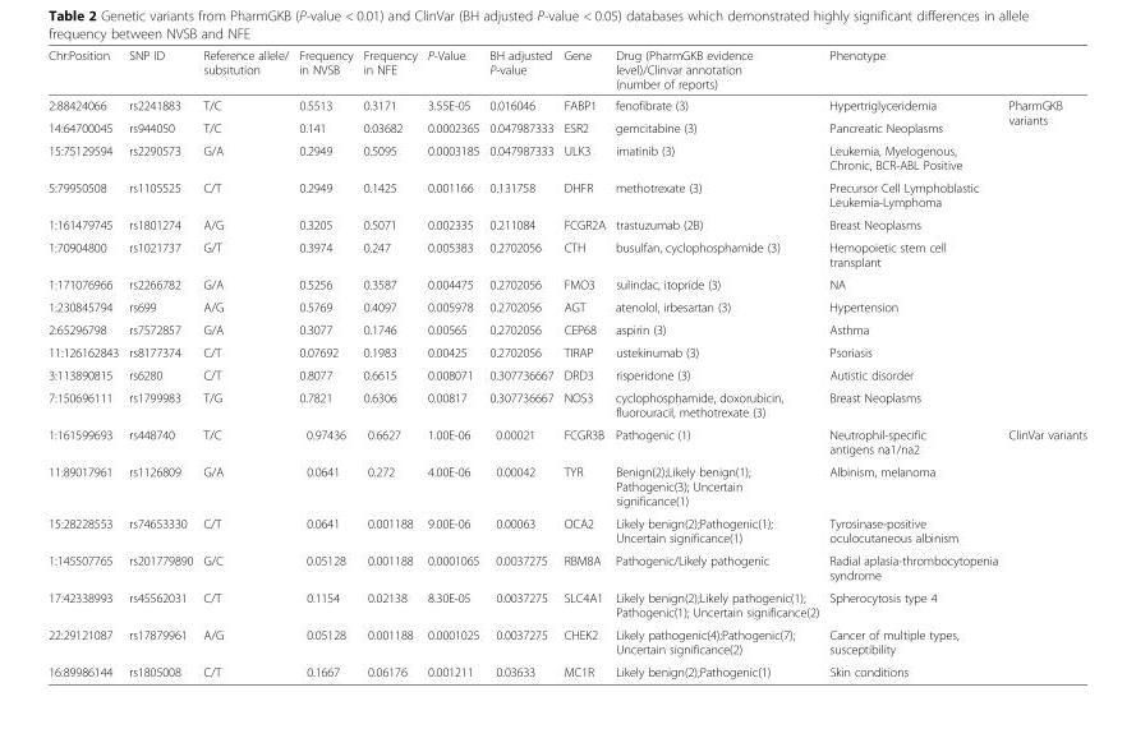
<table><thead><tr><td>Chr:Position</td><td>SNP ID</td><td>Reference allele/ subsitution</td><td>Frequency in NVSB</td><td>Frequency in NFE</td><td>P-Value</td><td>BH adjusted P-value</td><td>Gene</td><td>Drug (PharmGKB evidence level)/Clinvar annotation (number of reports)</td><td>Phenotype</td><td></td></tr></thead><tbody><tr><td>2:88424066</td><td>rs2241883</td><td>T/C</td><td>0.5513</td><td>0.3171</td><td>3.55E-05</td><td>0.016046</td><td>FABP1</td><td>fenofibrate (3)</td><td>Hypertriglyceridemia</td><td rowspan="12">PharmGKB variants</td></tr><tr><td>14:64700045</td><td>rs944050</td><td>T/C</td><td>0.141</td><td>0.03682</td><td>0.0002365</td><td>0.047987333</td><td>ESR2</td><td>gemcitabine (3)</td><td>Pancreatic Neoplasms</td></tr><tr><td>15:75129594</td><td>rs2290573</td><td>G/A</td><td>0.2949</td><td>0.5095</td><td>0.0003185</td><td>0.047987333</td><td>ULK3</td><td>imatinib (3)</td><td>Leukemia, Myelogenous, Chronic, BCR-ABL Positive</td></tr><tr><td>5:79950508</td><td>rs1105525</td><td>C/T</td><td>0.2949</td><td>0.1425</td><td>0.001166</td><td>0.131758</td><td>DHFR</td><td>methotrexate (3)</td><td>Precursor Cell Lymphoblastic Leukemia-Lymphoma</td></tr><tr><td>1:161479745</td><td>rs1801274</td><td>A/G</td><td>0.3205</td><td>0.5071</td><td>0.002335</td><td>0.211084</td><td>FCGR2A</td><td>trastuzumab (2B)</td><td>Breast Neoplasms</td></tr><tr><td>1:70904800</td><td>rs1021737</td><td>G/T</td><td>0.3974</td><td>0.247</td><td>0.005383</td><td>0.2702056</td><td>CTH</td><td>busulfan, cyclophosphamide (3)</td><td>Hemopoietic stem cell transplant</td></tr><tr><td>1:171076966</td><td>rs2266782</td><td>G/A</td><td>0.5256</td><td>0.3587</td><td>0.004475</td><td>0.2702056</td><td>FMO3</td><td>sulindac, itopride (3)</td><td>NA</td></tr><tr><td>1:230845794</td><td>rs699</td><td>A/G</td><td>0.5769</td><td>0.4097</td><td>0.005978</td><td>0.2702056</td><td>AGT</td><td>atenolol, irbesartan (3)</td><td>Hypertension</td></tr><tr><td>2:65296798</td><td>rs7572857</td><td>G/A</td><td>0.3077</td><td>0.1746</td><td>0.00565</td><td>0.2702056</td><td>CEP68</td><td>aspirin (3)</td><td>Asthma</td></tr><tr><td>11:126162843</td><td>rs8177374</td><td>C/T</td><td>0.07692</td><td>0.1983</td><td>0.00425</td><td>0.2702056</td><td>TIRAP</td><td>ustekinumab (3)</td><td>Psoriasis</td></tr><tr><td>3:113890815</td><td>rs6280</td><td>C/T</td><td>0.8077</td><td>0.6615</td><td>0.008071</td><td>0.307736667</td><td>DRD3</td><td>risperidone (3)</td><td>Autistic disorder</td></tr><tr><td>7:150696111</td><td>rs1799983</td><td>T/G</td><td>0.7821</td><td>0.6306</td><td>0.00817</td><td>0.307736667</td><td>NOS3</td><td>cyclophosphamide, doxorubicin, fluorouracil, methotrexate (3)</td><td>Breast Neoplasms</td></tr><tr><td>1:161599693</td><td>rs448740</td><td>T/C</td><td>0.97436</td><td>0.6627</td><td>1.00E-06</td><td>0.00021</td><td>FCGR3B</td><td>Pathogenic (1)</td><td>Neutrophil-specific antigens na1/na2</td><td rowspan="7">ClinVar variants</td></tr><tr><td>11:89017961</td><td>rs1126809</td><td>G/A</td><td>0.0641</td><td>0.272</td><td>4.00E-06</td><td>0.00042</td><td>TYR</td><td>Benign(2);Likely benign(1); Pathogenic(3); Uncertain significance(1)</td><td>Albinism, melanoma</td></tr><tr><td>15:28228553</td><td>rs74653330</td><td>C/T</td><td>0.0641</td><td>0.001188</td><td>9.00E-06</td><td>0.00063</td><td>OCA2</td><td>Likely benign(2);Pathogenic(1); Uncertain significance(1)</td><td>Tyrosinase-positive oculocutaneous albinism</td></tr><tr><td>1:145507765</td><td>rs201779890</td><td>G/C</td><td>0.05128</td><td>0.001188</td><td>0.0001065</td><td>0.0037275</td><td>RBM8A</td><td>Pathogenic/Likely pathogenic</td><td>Radial aplasia-thrombocytopenia syndrome</td></tr><tr><td>17:42338993</td><td>rs45562031</td><td>C/T</td><td>0.1154</td><td>0.02138</td><td>8.30E-05</td><td>0.0037275</td><td>SLC4A1</td><td>Likely benign(2);Likely pathogenic(1); Pathogenic(1); Uncertain significance(2)</td><td>Spherocytosis type 4</td></tr><tr><td>22:29121087</td><td>rs17879961</td><td>A/G</td><td>0.05128</td><td>0.001188</td><td>0.0001025</td><td>0.0037275</td><td>CHEK2</td><td>Likely pathogenic(4);Pathogenic(7); Uncertain significance(2)</td><td>Cancer of multiple types, susceptibility</td></tr><tr><td>16:89986144</td><td>rs1805008</td><td>C/T</td><td>0.1667</td><td>0.06176</td><td>0.001211</td><td>0.03633</td><td>MC1R</td><td>Likely benign(2);Pathogenic(1)</td><td>Skin conditions</td></tr></tbody></table>